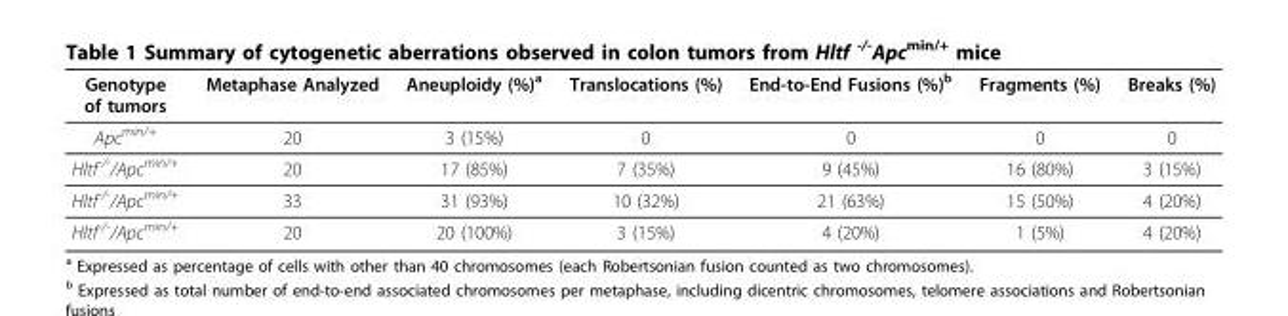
<table><thead><tr><td>Genotype of tumors</td><td>Metaphase Analyzed</td><td>Aneuploidy (%)<sup>a</sup></td><td>Translocations (%)</td><td>End-to-End Fusions (%)<sup>b</sup></td><td>Fragments (%)</td><td>Breaks (%)</td></tr></thead><tbody><tr><td>Apc<sup>min/+</sup></td><td>20</td><td>3 (15%)</td><td>0</td><td>0</td><td>0</td><td>0</td></tr><tr><td>Hltf<sup>-/-</sup>/Apc<sup>min/+</sup></td><td>20</td><td>17 (85%)</td><td>7 (35%)</td><td>9 (45%)</td><td>16 (80%)</td><td>3 (15%)</td></tr><tr><td>Hltf<sup>-/-</sup>/Apc<sup>min/+</sup></td><td>33</td><td>31 (93%)</td><td>10 (32%)</td><td>21 (63%)</td><td>15 (50%)</td><td>4 (20%)</td></tr><tr><td>Hltf<sup>-/-</sup>/Apc<sup>min/+</sup></td><td>20</td><td>20 (100%)</td><td>3 (15%)</td><td>4 (20%)</td><td>1 (5%)</td><td>4 (20%)</td></tr></tbody></table>